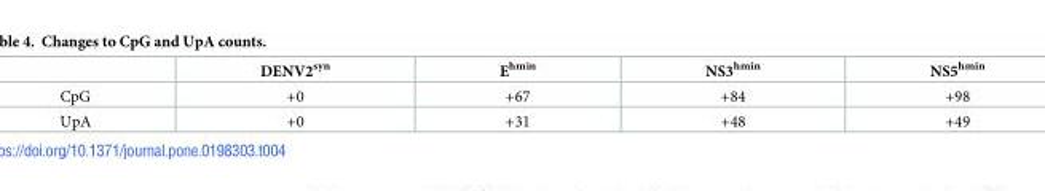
<table><thead><tr><td></td><td>DENV2<sup>syn</sup></td><td>E<sup>hmin</sup></td><td>NS3<sup>hmin</sup></td><td>NS5<sup>hmin</sup></td></tr></thead><tbody><tr><td>CpG</td><td>+0</td><td>+67</td><td>+84</td><td>+98</td></tr><tr><td>UpA</td><td>+0</td><td>+31</td><td>+48</td><td>+49</td></tr></tbody></table>